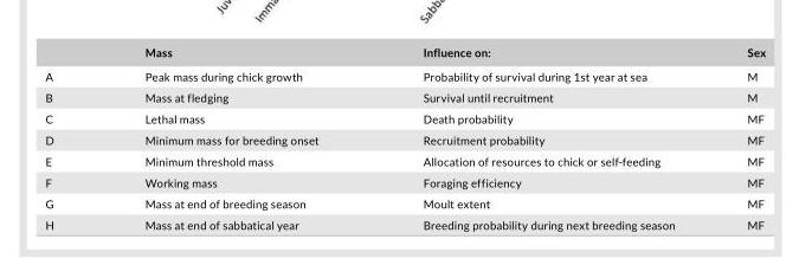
<table><thead><tr><td></td><td>Mass</td><td>Influence on:</td><td>Sex</td></tr></thead><tbody><tr><td>A</td><td>Peak mass during chick growth</td><td>Probability of survival during 1st year at sea</td><td>M</td></tr><tr><td>B</td><td>Mass at fledging</td><td>Survival until recruitment</td><td>M</td></tr><tr><td>C</td><td>Lethal mass</td><td>Death probability</td><td>MF</td></tr><tr><td>D</td><td>Minimum mass for breeding onset</td><td>Recruitment probability</td><td>MF</td></tr><tr><td>E</td><td>Minimum threshold mass</td><td>Allocation of resources to chick or self- feeding</td><td>MF</td></tr><tr><td>F</td><td>Working mass</td><td>Foraging efficiency</td><td>MF</td></tr><tr><td>G</td><td>Mass at end of breeding season</td><td>Moult extent</td><td>MF</td></tr><tr><td>H</td><td>Mass at end of sabbatical year</td><td>Breeding probability during next breeding season</td><td>MF</td></tr></tbody></table>